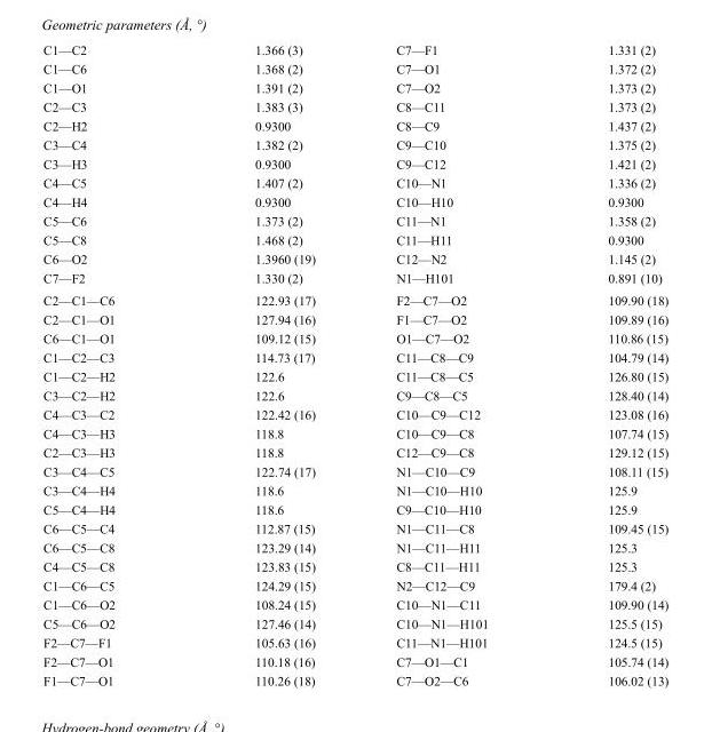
<table><tbody><tr><td>C1—C2</td><td>1.366 (3)</td><td>C7—F1</td><td>1.331 (2)</td></tr><tr><td>C1—C6</td><td>1.368 (2)</td><td>C7—O1</td><td>1.372 (2)</td></tr><tr><td>C1—O1</td><td>1.391 (2)</td><td>C7—O2</td><td>1.373 (2)</td></tr><tr><td>C2—C3</td><td>1.383 (3)</td><td>C8—C11</td><td>1.373 (2)</td></tr><tr><td>C2—H2</td><td>0.9300</td><td>C8—C9</td><td>1.437 (2)</td></tr><tr><td>C3—C4</td><td>1.382 (2)</td><td>C9—C10</td><td>1.375 (2)</td></tr><tr><td>C3—H3</td><td>0.9300</td><td>C9—C12</td><td>1.421 (2)</td></tr><tr><td>C4—C5</td><td>1.407 (2)</td><td>C10—N1</td><td>1.336 (2)</td></tr><tr><td>C4—H4</td><td>0.9300</td><td>C10—H10</td><td>0.9300</td></tr><tr><td>C5—C6</td><td>1.373 (2)</td><td>C11—N1</td><td>1.358 (2)</td></tr><tr><td>C5—C8</td><td>1.468 (2)</td><td>C11—H11</td><td>0.9300</td></tr><tr><td>C6—O2</td><td>1.3960 (19)</td><td>C12—N2</td><td>1.145 (2)</td></tr><tr><td>C7—F2</td><td>1.330 (2)</td><td>N1—H101</td><td>0.891 (10)</td></tr><tr><td>C2—C1—C6</td><td>122.93 (17)</td><td>F2—C7—O2</td><td>109.90 (18)</td></tr><tr><td>C2—C1—O1</td><td>127.94 (16)</td><td>F1—C7—O2</td><td>109.89 (16)</td></tr><tr><td>C6—C1—O1</td><td>109.12 (15)</td><td>O1—C7—O2</td><td>110.86 (15)</td></tr><tr><td>C1—C2—C3</td><td>114.73 (17)</td><td>C11—C8—C9</td><td>104.79 (14)</td></tr><tr><td>C1—C2—H2</td><td>122.6</td><td>C11—C8—C5</td><td>126.80 (15)</td></tr><tr><td>C3—C2—H2</td><td>122.6</td><td>C9—C8—C5</td><td>128.40 (14)</td></tr><tr><td>C4—C3—C2</td><td>122.42 (16)</td><td>C10—C9—C12</td><td>123.08 (16)</td></tr><tr><td>C4—C3—H3</td><td>118.8</td><td>C10—C9—C8</td><td>107.74 (15)</td></tr><tr><td>C2—C3—H3</td><td>118.8</td><td>C12—C9—C8</td><td>129.12 (15)</td></tr><tr><td>C3—C4—C5</td><td>122.74 (17)</td><td>N1—C10—C9</td><td>108.11 (15)</td></tr><tr><td>C3—C4—H4</td><td>118.6</td><td>N1—C10—H10</td><td>125.9</td></tr><tr><td>C5—C4—H4</td><td>118.6</td><td>C9—C10—H10</td><td>125.9</td></tr><tr><td>C6—C5—C4</td><td>112.87 (15)</td><td>N1—C11—C8</td><td>109.45 (15)</td></tr><tr><td>C6—C5—C8</td><td>123.29 (14)</td><td>N1—C11—H11</td><td>125.3</td></tr><tr><td>C4—C5—C8</td><td>123.83 (15)</td><td>C8—C11—H11</td><td>125.3</td></tr><tr><td>C1—C6—C5</td><td>124.29 (15)</td><td>N2—C12—C9</td><td>179.4 (2)</td></tr><tr><td>C1—C6—O2</td><td>108.24 (15)</td><td>C10—N1—C11</td><td>109.90 (14)</td></tr><tr><td>C5—C6—O2</td><td>127.46 (14)</td><td>C10—N1—H101</td><td>125.5 (15)</td></tr><tr><td>F2—C7—F1</td><td>105.63 (16)</td><td>C11—N1—H101</td><td>124.5 (15)</td></tr><tr><td>F2—C7—O1</td><td>110.18 (16)</td><td>C7—O1—C1</td><td>105.74 (14)</td></tr><tr><td>F1—C7—O1</td><td>110.26 (18)</td><td>C7—O2—C6</td><td>106.02 (13)</td></tr></tbody></table>